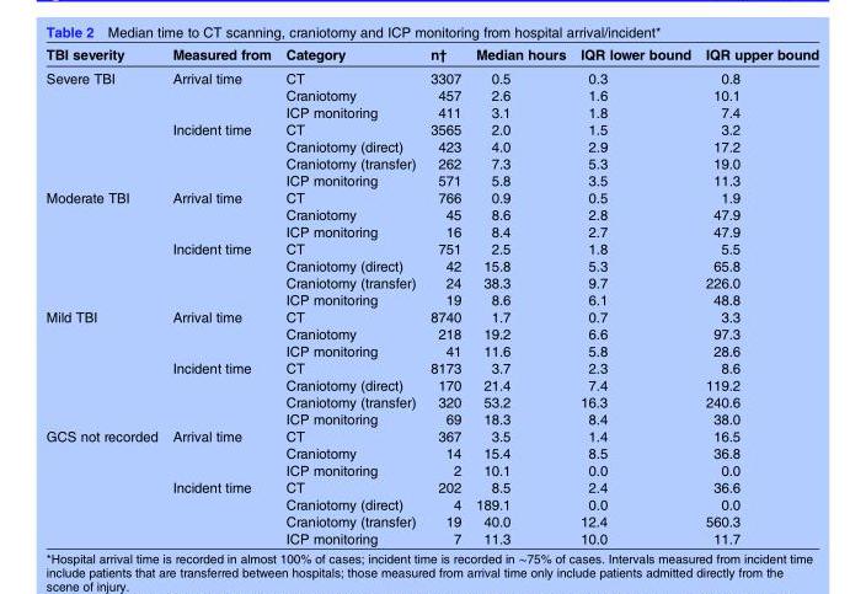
<table><thead><tr><td>TBI severity</td><td>Measured from</td><td>Category</td><td>n†</td><td>Median hours</td><td>IQR lower bound</td><td>IQR upper bound</td></tr></thead><tbody><tr><td rowspan="7">Severe TBI</td><td rowspan="3">Arrival time</td><td>CT</td><td>3307</td><td>0.5</td><td>0.3</td><td>0.8</td></tr><tr><td>Craniotomy</td><td>457</td><td>2.6</td><td>1.6</td><td>10.1</td></tr><tr><td>ICP monitoring</td><td>411</td><td>3.1</td><td>1.8</td><td>7.4</td></tr><tr><td rowspan="4">Incident time</td><td>CT</td><td>3565</td><td>2.0</td><td>1.5</td><td>3.2</td></tr><tr><td>Craniotomy (direct)</td><td>423</td><td>4.0</td><td>2.9</td><td>17.2</td></tr><tr><td>Craniotomy (transfer)</td><td>262</td><td>7.3</td><td>5.3</td><td>19.0</td></tr><tr><td>ICP monitoring</td><td>571</td><td>5.8</td><td>3.5</td><td>11.3</td></tr><tr><td rowspan="7">Moderate TBI</td><td rowspan="3">Arrival time</td><td>CT</td><td>766</td><td>0.9</td><td>0.5</td><td>1.9</td></tr><tr><td>Craniotomy</td><td>45</td><td>8.6</td><td>2.8</td><td>47.9</td></tr><tr><td>ICP monitoring</td><td>16</td><td>8.4</td><td>2.7</td><td>47.9</td></tr><tr><td rowspan="4">Incident time</td><td>CT</td><td>751</td><td>2.5</td><td>1.8</td><td>5.5</td></tr><tr><td>Craniotomy (direct)</td><td>42</td><td>15.8</td><td>5.3</td><td>65.8</td></tr><tr><td>Craniotomy (transfer)</td><td>24</td><td>38.3</td><td>9.7</td><td>226.0</td></tr><tr><td>ICP monitoring</td><td>19</td><td>8.6</td><td>6.1</td><td>48.8</td></tr><tr><td rowspan="7">Mild TBI</td><td rowspan="3">Arrival time</td><td>CT</td><td>8740</td><td>1.7</td><td>0.7</td><td>3.3</td></tr><tr><td>Craniotomy</td><td>218</td><td>19.2</td><td>6.6</td><td>97.3</td></tr><tr><td>ICP monitoring</td><td>41</td><td>11.6</td><td>5.8</td><td>28.6</td></tr><tr><td rowspan="4">Incident time</td><td>CT</td><td>8173</td><td>3.7</td><td>2.3</td><td>8.6</td></tr><tr><td>Craniotomy (direct)</td><td>170</td><td>21.4</td><td>7.4</td><td>119.2</td></tr><tr><td>Craniotomy (transfer)</td><td>320</td><td>53.2</td><td>16.3</td><td>240.6</td></tr><tr><td>ICP monitoring</td><td>69</td><td>18.3</td><td>8.4</td><td>38.0</td></tr><tr><td rowspan="7">GCS not recorded</td><td rowspan="3">Arrival time</td><td>CT</td><td>367</td><td>3.5</td><td>1.4</td><td>16.5</td></tr><tr><td>Craniotomy</td><td>14</td><td>15.4</td><td>8.5</td><td>36.8</td></tr><tr><td>ICP monitoring</td><td>2</td><td>10.1</td><td>0.0</td><td>0.0</td></tr><tr><td rowspan="4">Incident time</td><td>CT</td><td>202</td><td>8.5</td><td>2.4</td><td>36.6</td></tr><tr><td>Craniotomy (direct)</td><td>4</td><td>189.1</td><td>0.0</td><td>0.0</td></tr><tr><td>Craniotomy (transfer)</td><td>19</td><td>40.0</td><td>12.4</td><td>560.3</td></tr><tr><td>ICP monitoring</td><td>7</td><td>11.3</td><td>10.0</td><td>11.7</td></tr></tbody></table>